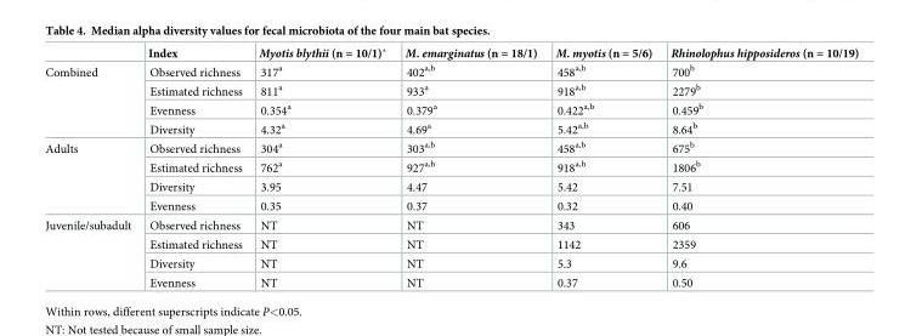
<table><thead><tr><td></td><td>Index</td><td>Myotis blythii (n = 10/1)*</td><td>M. emarginatus (n = 18/1)</td><td>M. myotis (n = 5/6)</td><td>Rhinolophus hipposideros (n = 10/19)</td></tr></thead><tbody><tr><td rowspan="4">Combined</td><td>Observed richness</td><td>317<sup>a</sup></td><td>402<sup>a,b</sup></td><td>458<sup>a,b</sup></td><td>700<sup>b</sup></td></tr><tr><td>Estimated richness</td><td>811<sup>a</sup></td><td>933<sup>a</sup></td><td>918<sup>a,b</sup></td><td>2279<sup>b</sup></td></tr><tr><td>Evenness</td><td>0.354<sup>a</sup></td><td>0.379<sup>a</sup></td><td>0.422<sup>a,b</sup></td><td>0.459<sup>b</sup></td></tr><tr><td>Diversity</td><td>4.32<sup>a</sup></td><td>4.69<sup>a</sup></td><td>5.42<sup>a,b</sup></td><td>8.64<sup>b</sup></td></tr><tr><td rowspan="4">Adults</td><td>Observed richness</td><td>304<sup>a</sup></td><td>303<sup>a,b</sup></td><td>458<sup>a,b</sup></td><td>675<sup>b</sup></td></tr><tr><td>Estimated richness</td><td>762<sup>a</sup></td><td>927<sup>a,b</sup></td><td>918<sup>a,b</sup></td><td>1806<sup>b</sup></td></tr><tr><td>Diversity</td><td>3.95</td><td>4.47</td><td>5.42</td><td>7.51</td></tr><tr><td>Evenness</td><td>0.35</td><td>0.37</td><td>0.32</td><td>0.40</td></tr><tr><td rowspan="4">Juvenile/subadult</td><td>Observed richness</td><td>NT</td><td>NT</td><td>343</td><td>606</td></tr><tr><td>Estimated richness</td><td>NT</td><td>NT</td><td>1142</td><td>2359</td></tr><tr><td>Diversity</td><td>NT</td><td>NT</td><td>5.3</td><td>9.6</td></tr><tr><td>Evenness</td><td>NT</td><td>NT</td><td>0.37</td><td>0.50</td></tr></tbody></table>